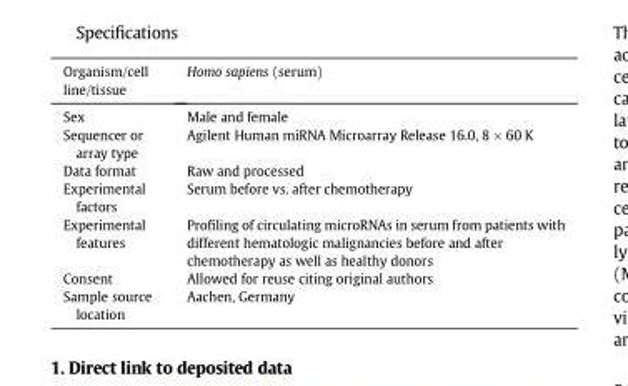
<table><thead><tr><td>Organism/cell line/tissue</td><td>Homo sapiens (serum)</td></tr></thead><tbody><tr><td>Sex</td><td>Male and female</td></tr><tr><td>Sequencer or array type</td><td>Agilent Human miRNA Microarray Release 16.0, 8 × 60 K</td></tr><tr><td>Data format</td><td>Raw and processed</td></tr><tr><td>Experimental factors</td><td>Serum before vs. after chemotherapy</td></tr><tr><td>Experimental features</td><td>Profiling of circulating microRNAs in serum from patients with different hematologic malignancies before and after chemotherapy as well as healthy donors</td></tr><tr><td>Consent</td><td>Allowed for reuse citing original authors</td></tr><tr><td>Sample source location</td><td>Aachen, Germany</td></tr></tbody></table>